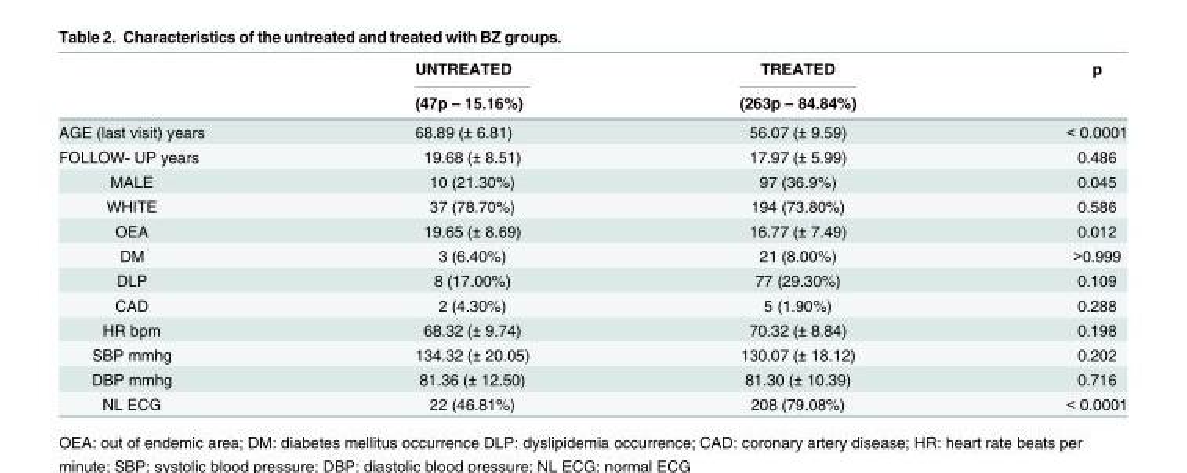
<table><thead><tr><td rowspan="2"></td><td rowspan="2">UNTREATED (47p – 15.16%)</td><td rowspan="2">TREATED (263p – 84.84%)</td><td rowspan="2">p</td></tr><tr></tr></thead><tbody><tr><td>AGE (last visit) years</td><td>68.89 (± 6.81)</td><td>56.07 (± 9.59)</td><td>&lt; 0.0001</td></tr><tr><td>FOLLOW- UP years</td><td>19.68 (± 8.51)</td><td>17.97 (± 5.99)</td><td>0.486</td></tr><tr><td>MALE</td><td>10 (21.30%)</td><td>97 (36.9%)</td><td>0.045</td></tr><tr><td>WHITE</td><td>37 (78.70%)</td><td>194 (73.80%)</td><td>0.586</td></tr><tr><td>OEA</td><td>19.65 (± 8.69)</td><td>16.77 (± 7.49)</td><td>0.012</td></tr><tr><td>DM</td><td>3 (6.40%)</td><td>21 (8.00%)</td><td>&gt;0.999</td></tr><tr><td>DLP</td><td>8 (17.00%)</td><td>77 (29.30%)</td><td>0.109</td></tr><tr><td>CAD</td><td>2 (4.30%)</td><td>5 (1.90%)</td><td>0.288</td></tr><tr><td>HR bpm</td><td>68.32 (± 9.74)</td><td>70.32 (± 8.84)</td><td>0.198</td></tr><tr><td>SBP mmhg</td><td>134.32 (± 20.05)</td><td>130.07 (± 18.12)</td><td>0.202</td></tr><tr><td>DBP mmhg</td><td>81.36 (± 12.50)</td><td>81.30 (± 10.39)</td><td>0.716</td></tr><tr><td>NL ECG</td><td>22 (46.81%)</td><td>208 (79.08%)</td><td>&lt; 0.0001</td></tr></tbody></table>